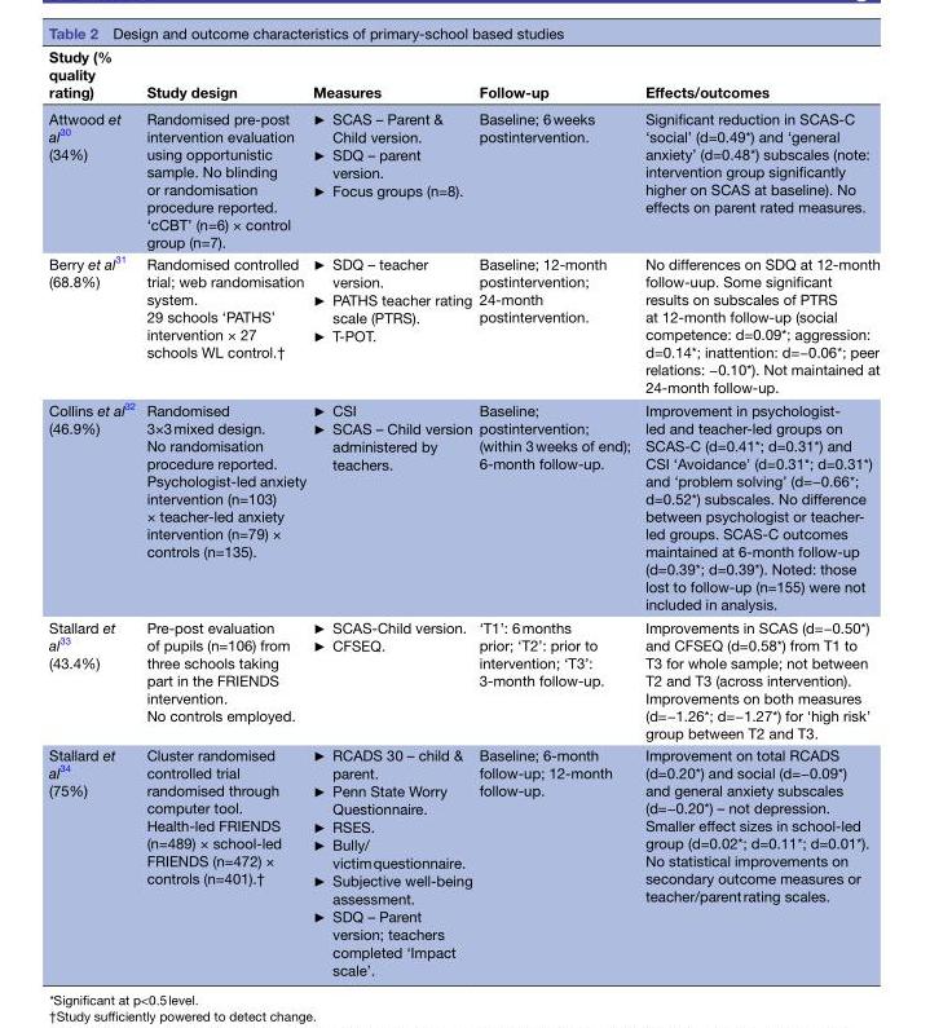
<table><thead><tr><td>Study (% quality rating)</td><td>Study design</td><td>Measures</td><td>Follow-up</td><td>Effects/outcomes</td></tr></thead><tbody><tr><td>Attwood et al30 (34%)</td><td>Randomised pre-post intervention evaluation using opportunistic sample. No blinding or randomisation procedure reported. ‘cCBT’ (n=6) × control group (n=7).</td><td>► SCAS – Parent &amp; Child version. ► SDQ – parent version. ► Focus groups (n=8).</td><td>Baseline; 6 weeks postintervention.</td><td>Significant reduction in SCAS-C ‘social’ (d=0.49*) and ‘general anxiety’ (d=0.48*) subscales (note: intervention group significantly higher on SCAS at baseline). No effects on parent rated measures.</td></tr><tr><td>Berry et al31 (68.8%)</td><td>Randomised controlled trial; web randomisation system. 29 schools ‘PATHS’ intervention × 27 schools WL control.†</td><td>► SDQ – teacher version. ► PATHS teacher rating scale (PTRS). ► T-POT.</td><td>Baseline; 12-month postintervention; 24-month postintervention.</td><td>No differences on SDQ at 12-month follow-uup. Some significant results on subscales of PTRS at 12-month follow-up (social competence: d=0.09*; aggression: d=0.14*; inattention: d=−0.06*; peer relations: −0.10*). Not maintained at 24-month follow-up.</td></tr><tr><td>Collins et al32 (46.9%)</td><td>Randomised 3×3 mixed design. No randomisation procedure reported. Psychologist-led anxiety intervention (n=103) × teacher-led anxiety intervention (n=79) × controls (n=135).</td><td>► CSI ► SCAS – Child version administered by teachers.</td><td>Baseline; postintervention; (within 3 weeks of end); 6-month follow-up.</td><td>Improvement in psychologist- led and teacher-led groups on SCAS-C (d=0.41*; d=0.31*) and CSI ‘Avoidance’ (d=0.31*; d=0.31*) and ‘problem solving’ (d=−0.66*; d=0.52*) subscales. No difference between psychologist or teacher- led groups. SCAS-C outcomes maintained at 6-month follow-up (d=0.39*; d=0.39*). Noted: those lost to follow-up (n=155) were not included in analysis.</td></tr><tr><td>Stallard et al33 (43.4%)</td><td>Pre-post evaluation of pupils (n=106) from three schools taking part in the FRIENDS intervention. No controls employed.</td><td>► SCAS-Child version. ► CFSEQ.</td><td>‘T1’: 6 months prior; ‘T2’: prior to intervention; ‘T3’: 3-month follow-up.</td><td>Improvements in SCAS (d=−0.50*) and CFSEQ (d=0.58*) from T1 to T3 for whole sample; not between T2 and T3 (across intervention). Improvements on both measures (d=−1.26*; d=−1.27*) for ‘high risk’ group between T2 and T3.</td></tr><tr><td>Stallard et al34 (75%)</td><td>Cluster randomised controlled trial randomised through computer tool. Health-led FRIENDS (n=489) × school-led FRIENDS (n=472) × controls (n=401).†</td><td>► RCADS 30 – child &amp; parent. ► Penn State Worry Questionnaire. ► RSES. ► Bully/ victim questionnaire. ► Subjective well-being assessment. ► SDQ – Parent version; teachers completed ‘Impact scale’.</td><td>Baseline; 6-month follow-up; 12-month follow-up.</td><td>Improvement on total RCADS (d=0.20*) and social (d=−0.09*) and general anxiety subscales (d=−0.20*) – not depression. Smaller effect sizes in school-led group (d=0.02*; d=0.11*; d=0.01*). No statistical improvements on secondary outcome measures or teacher/parent rating scales.</td></tr></tbody></table>